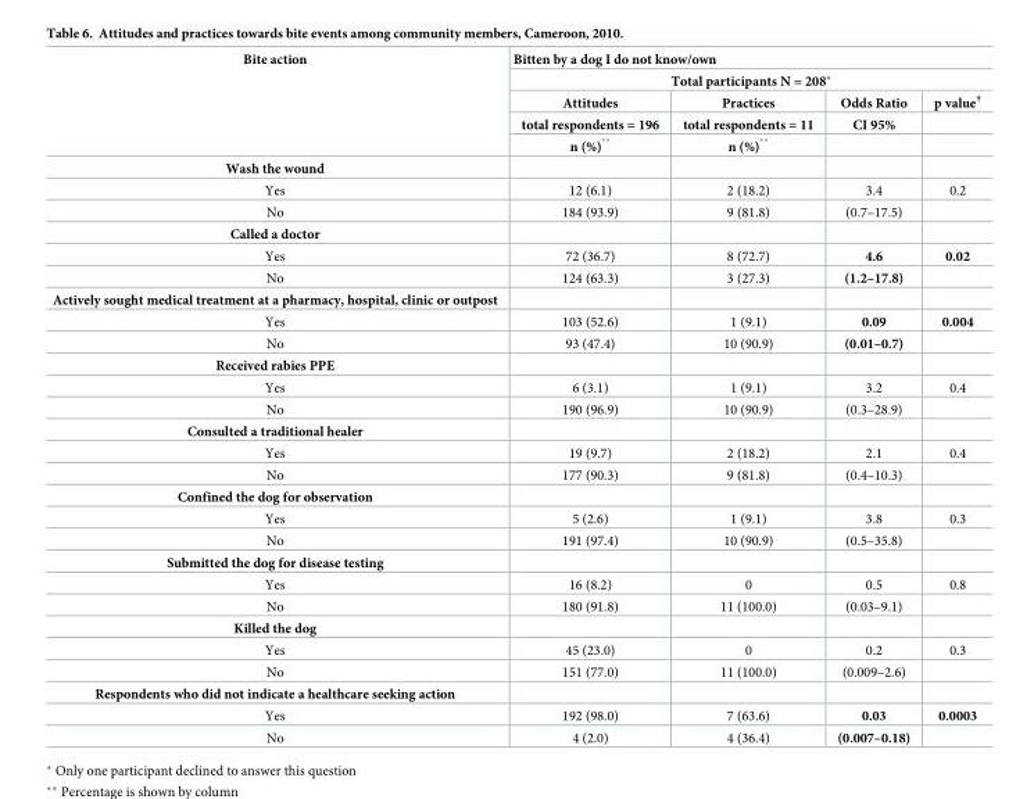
<table><thead><tr><td rowspan="5">Bite action</td><td rowspan="2" colspan="4">Bitten by a dog I do not know/own Total participants N = 208*</td></tr><tr></tr><tr><td rowspan="3">Attitudes total respondents = 196 n (%) **</td><td rowspan="3">Practices total respondents = 11 n (%) **</td><td rowspan="3">Odds Ratio CI 95%</td><td rowspan="3">p value<sup>†</sup></td></tr><tr></tr><tr></tr></thead><tbody><tr><td colspan="5">Wash the wound</td></tr><tr><td>Yes</td><td>12 (6.1)</td><td>2 (18.2)</td><td>3.4</td><td>0.2</td></tr><tr><td>No</td><td>184 (93.9)</td><td>9 (81.8)</td><td>(0.7–17.5)</td><td></td></tr><tr><td colspan="5">Called a doctor</td></tr><tr><td>Yes</td><td>72 (36.7)</td><td>8 (72.7)</td><td>4.6</td><td>0.02</td></tr><tr><td>No</td><td>124 (63.3)</td><td>3 (27.3)</td><td>(1.2–17.8)</td><td></td></tr><tr><td colspan="5">Actively sought medical treatment at a pharmacy, hospital, clinic or outpost</td></tr><tr><td>Yes</td><td>103 (52.6)</td><td>1 (9.1)</td><td>0.09</td><td>0.004</td></tr><tr><td>No</td><td>93 (47.4)</td><td>10 (90.9)</td><td>(0.01–0.7)</td><td></td></tr><tr><td colspan="5">Received rabies PPE</td></tr><tr><td>Yes</td><td>6 (3.1)</td><td>1 (9.1)</td><td>3.2</td><td>0.4</td></tr><tr><td>No</td><td>190 (96.9)</td><td>10 (90.9)</td><td>(0.3–28.9)</td><td></td></tr><tr><td colspan="5">Consulted a traditional healer</td></tr><tr><td>Yes</td><td>19 (9.7)</td><td>2 (18.2)</td><td>2.1</td><td>0.4</td></tr><tr><td>No</td><td>177 (90.3)</td><td>9 (81.8)</td><td>(0.4–10.3)</td><td></td></tr><tr><td colspan="5">Confined the dog for observation</td></tr><tr><td>Yes</td><td>5 (2.6)</td><td>1 (9.1)</td><td>3.8</td><td>0.3</td></tr><tr><td>No</td><td>191 (97.4)</td><td>10 (90.9)</td><td>(0.5–35.8)</td><td></td></tr><tr><td colspan="5">Submitted the dog for disease testing</td></tr><tr><td>Yes</td><td>16 (8.2)</td><td>0</td><td>0.5</td><td>0.8</td></tr><tr><td>No</td><td>180 (91.8)</td><td>11 (100.0)</td><td>(0.03–9.1)</td><td></td></tr><tr><td colspan="5">Killed the dog</td></tr><tr><td>Yes</td><td>45 (23.0)</td><td>0</td><td>0.2</td><td>0.3</td></tr><tr><td>No</td><td>151 (77.0)</td><td>11 (100.0)</td><td>(0.009–2.6)</td><td></td></tr><tr><td colspan="5">Respondents who did not indicate a healthcare seeking action</td></tr><tr><td>Yes</td><td>192 (98.0)</td><td>7 (63.6)</td><td>0.03</td><td>0.0003</td></tr><tr><td>No</td><td>4 (2.0)</td><td>4 (36.4)</td><td>(0.007–0.18)</td><td></td></tr></tbody></table>